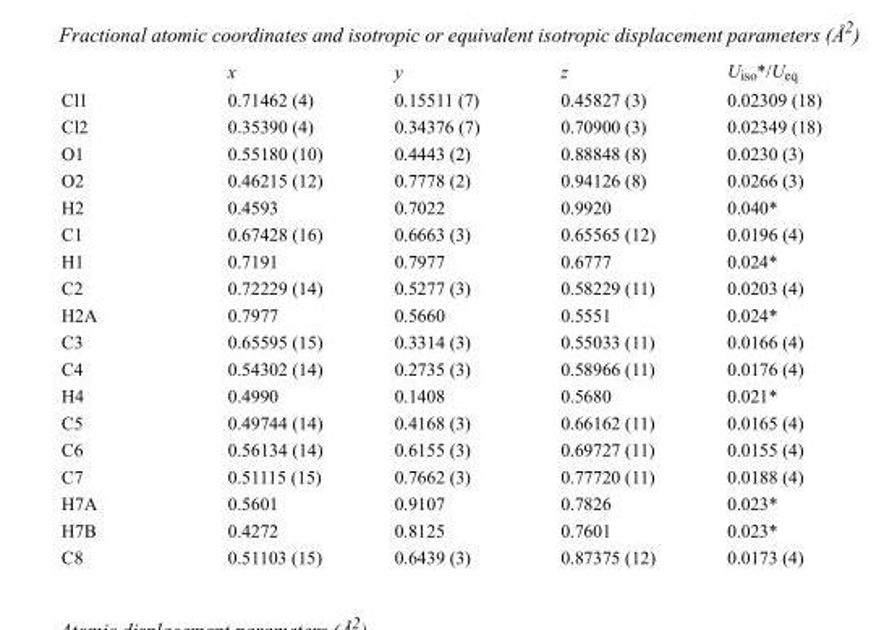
<table><thead><tr><td></td><td>x</td><td>y</td><td>z</td><td>U<sub>iso</sub>*/U<sub>eq</sub></td></tr></thead><tbody><tr><td>Cl1</td><td>0.71462 (4)</td><td>0.15511 (7)</td><td>0.45827 (3)</td><td>0.02309 (18)</td></tr><tr><td>Cl2</td><td>0.35390 (4)</td><td>0.34376 (7)</td><td>0.70900 (3)</td><td>0.02349 (18)</td></tr><tr><td>O1</td><td>0.55180 (10)</td><td>0.4443 (2)</td><td>0.88848 (8)</td><td>0.0230 (3)</td></tr><tr><td>O2</td><td>0.46215 (12)</td><td>0.7778 (2)</td><td>0.94126 (8)</td><td>0.0266 (3)</td></tr><tr><td>H2</td><td>0.4593</td><td>0.7022</td><td>0.9920</td><td>0.040*</td></tr><tr><td>C1</td><td>0.67428 (16)</td><td>0.6663 (3)</td><td>0.65565 (12)</td><td>0.0196 (4)</td></tr><tr><td>H1</td><td>0.7191</td><td>0.7977</td><td>0.6777</td><td>0.024*</td></tr><tr><td>C2</td><td>0.72229 (14)</td><td>0.5277 (3)</td><td>0.58229 (11)</td><td>0.0203 (4)</td></tr><tr><td>H2A</td><td>0.7977</td><td>0.5660</td><td>0.5551</td><td>0.024*</td></tr><tr><td>C3</td><td>0.65595 (15)</td><td>0.3314 (3)</td><td>0.55033 (11)</td><td>0.0166 (4)</td></tr><tr><td>C4</td><td>0.54302 (14)</td><td>0.2735 (3)</td><td>0.58966 (11)</td><td>0.0176 (4)</td></tr><tr><td>H4</td><td>0.4990</td><td>0.1408</td><td>0.5680</td><td>0.021*</td></tr><tr><td>C5</td><td>0.49744 (14)</td><td>0.4168 (3)</td><td>0.66162 (11)</td><td>0.0165 (4)</td></tr><tr><td>C6</td><td>0.56134 (14)</td><td>0.6155 (3)</td><td>0.69727 (11)</td><td>0.0155 (4)</td></tr><tr><td>C7</td><td>0.51115 (15)</td><td>0.7662 (3)</td><td>0.77720 (11)</td><td>0.0188 (4)</td></tr><tr><td>H7A</td><td>0.5601</td><td>0.9107</td><td>0.7826</td><td>0.023*</td></tr><tr><td>H7B</td><td>0.4272</td><td>0.8125</td><td>0.7601</td><td>0.023*</td></tr><tr><td>C8</td><td>0.51103 (15)</td><td>0.6439 (3)</td><td>0.87375 (12)</td><td>0.0173 (4)</td></tr></tbody></table>